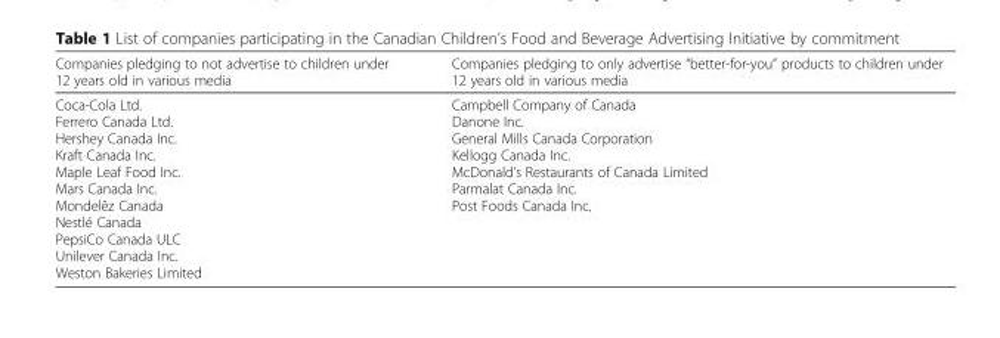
<table><thead><tr><td>Companies pledging to not advertise to children under 12 years old in various media</td><td>Companies pledging to only advertise “better-for-you” products to children under 12 years old in various media</td></tr></thead><tbody><tr><td>Coca-Cola Ltd. Ferrero Canada Ltd. Hershey Canada Inc. Kraft Canada Inc. Maple Leaf Food Inc. Mars Canada Inc. Mondelẽz Canada Nestlé Canada PepsiCo Canada ULC Unilever Canada Inc. Weston Bakeries Limited</td><td>Campbell Company of Canada Danone Inc. General Mills Canada Corporation Kellogg Canada Inc. McDonald’s Restaurants of Canada Limited Parmalat Canada Inc. Post Foods Canada Inc.</td></tr></tbody></table>